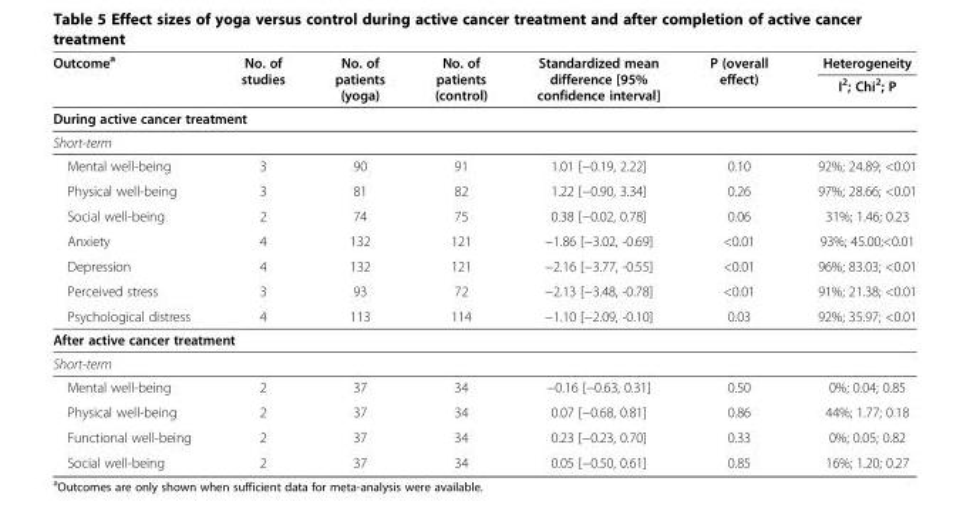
<table><thead><tr><td rowspan="2">Outcome<sup>a</sup></td><td rowspan="2">No. of studies</td><td rowspan="2">No. of patients (yoga)</td><td rowspan="2">No. of patients (control)</td><td rowspan="2">Standardized mean difference [95% confidence interval]</td><td rowspan="2">P (overall effect)</td><td rowspan="2">Heterogeneity I<sup>2</sup>; Chi<sup>2</sup>; P</td></tr><tr></tr></thead><tbody><tr><td colspan="7">During active cancer treatment</td></tr><tr><td colspan="7">Short-term</td></tr><tr><td>Mental well-being</td><td>3</td><td>90</td><td>91</td><td>1.01 [−0.19, 2.22]</td><td>0.10</td><td>92%; 24.89; &lt;0.01</td></tr><tr><td>Physical well-being</td><td>3</td><td>81</td><td>82</td><td>1.22 [−0.90, 3.34]</td><td>0.26</td><td>97%; 28.66; &lt;0.01</td></tr><tr><td>Social well-being</td><td>2</td><td>74</td><td>75</td><td>0.38 [−0.02, 0.78]</td><td>0.06</td><td>31%; 1.46; 0.23</td></tr><tr><td>Anxiety</td><td>4</td><td>132</td><td>121</td><td>−1.86 [−3.02, -0.69]</td><td>&lt;0.01</td><td>93%; 45.00;&lt;0.01</td></tr><tr><td>Depression</td><td>4</td><td>132</td><td>121</td><td>−2.16 [−3.77, -0.55]</td><td>&lt;0.01</td><td>96%; 83.03; &lt;0.01</td></tr><tr><td>Perceived stress</td><td>3</td><td>93</td><td>72</td><td>−2.13 [−3.48, -0.78]</td><td>&lt;0.01</td><td>91%; 21.38; &lt;0.01</td></tr><tr><td>Psychological distress</td><td>4</td><td>113</td><td>114</td><td>−1.10 [−2.09, -0.10]</td><td>0.03</td><td>92%; 35.97; &lt;0.01</td></tr><tr><td colspan="7">After active cancer treatment</td></tr><tr><td colspan="7">Short-term</td></tr><tr><td>Mental well-being</td><td>2</td><td>37</td><td>34</td><td>−0.16 [−0.63, 0.31]</td><td>0.50</td><td>0%; 0.04; 0.85</td></tr><tr><td>Physical well-being</td><td>2</td><td>37</td><td>34</td><td>0.07 [−0.68, 0.81]</td><td>0.86</td><td>44%; 1.77; 0.18</td></tr><tr><td>Functional well-being</td><td>2</td><td>37</td><td>34</td><td>0.23 [−0.23, 0.70]</td><td>0.33</td><td>0%; 0.05; 0.82</td></tr><tr><td>Social well-being</td><td>2</td><td>37</td><td>34</td><td>0.05 [−0.50, 0.61]</td><td>0.85</td><td>16%; 1.20; 0.27</td></tr></tbody></table>